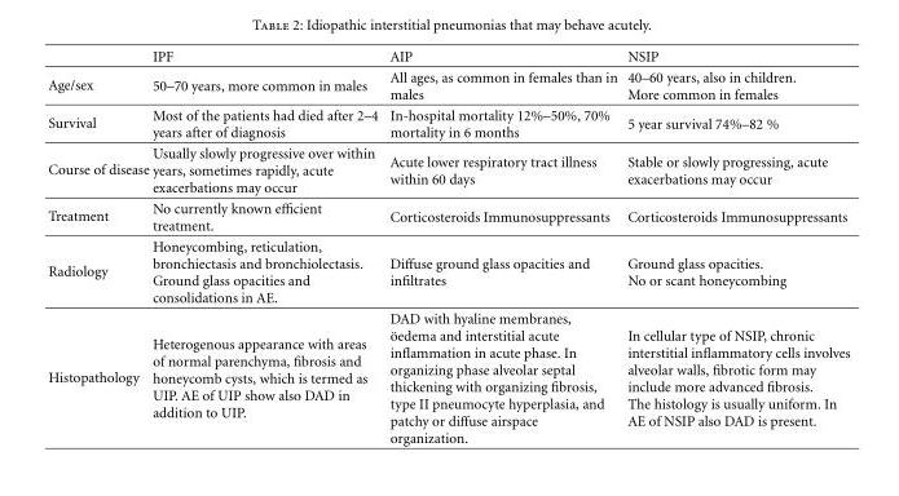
<table><thead><tr><td></td><td>IPF</td><td>AIP</td><td>NSIP</td></tr></thead><tbody><tr><td>Age/sex</td><td>50–70 years, more common in males</td><td>All ages, as common in females than in males</td><td>40–60 years, also in children. More common in females</td></tr><tr><td>Survival</td><td>Most of the patients had died after 2–4 years after of diagnosis</td><td>In-hospital mortality 12%–50%, 70% mortality in 6 months</td><td>5 year survival 74%–82 %</td></tr><tr><td>Course of disease</td><td>Usually slowly progressive over within years, sometimes rapidly, acute exacerbations may occur</td><td>Acute lower respiratory tract illness within 60 days</td><td>Stable or slowly progressing, acute exacerbations may occur</td></tr><tr><td>Treatment</td><td>No currently known efficient treatment.</td><td>Corticosteroids Immunosuppressants</td><td>Corticosteroids Immunosuppressants</td></tr><tr><td>Radiology</td><td>Honeycombing, reticulation, bronchiectasis and bronchiolectasis. Ground glass opacities and consolidations in AE.</td><td>Diffuse ground glass opacities and infiltrates</td><td>Ground glass opacities. No or scant honeycombing</td></tr><tr><td>Histopathology</td><td>Heterogenous appearance with areas of normal parenchyma, fibrosis and honeycomb cysts, which is termed as UIP. AE of UIP show also DAD in addition to UIP.</td><td>DAD with hyaline membranes, ¨oedema and interstitial acute inflammation in acute phase. In organizing phase alveolar septal thickening with organizing fibrosis, type II pneumocyte hyperplasia, and patchy or diffuse airspace organization.</td><td>In cellular type of NSIP, chronic interstitial inflammatory cells involves alveolar walls, fibrotic form may include more advanced fibrosis. The histology is usually uniform. In AE of NSIP also DAD is present.</td></tr></tbody></table>